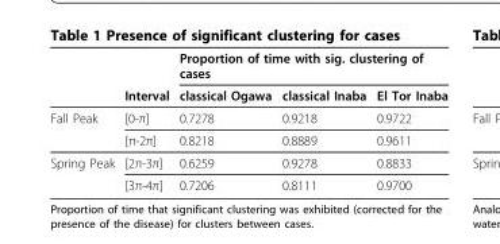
<table><thead><tr><td rowspan="2"></td><td rowspan="2">Interval</td><td colspan="3">Proportion of time with sig. clustering of cases</td></tr><tr><td>classical Ogawa</td><td>classical Inaba</td><td>El Tor Inaba</td></tr></thead><tbody><tr><td rowspan="2">Fall Peak</td><td>[0-π]</td><td>0.7278</td><td>0.9218</td><td>0.9722</td></tr><tr><td>[π-2π]</td><td>0.8218</td><td>0.8889</td><td>0.9611</td></tr><tr><td rowspan="2">Spring Peak</td><td>[2π-3π]</td><td>0.6259</td><td>0.9278</td><td>0.8833</td></tr><tr><td>[3π-4π]</td><td>0.7206</td><td>0.8111</td><td>0.9700</td></tr></tbody></table>